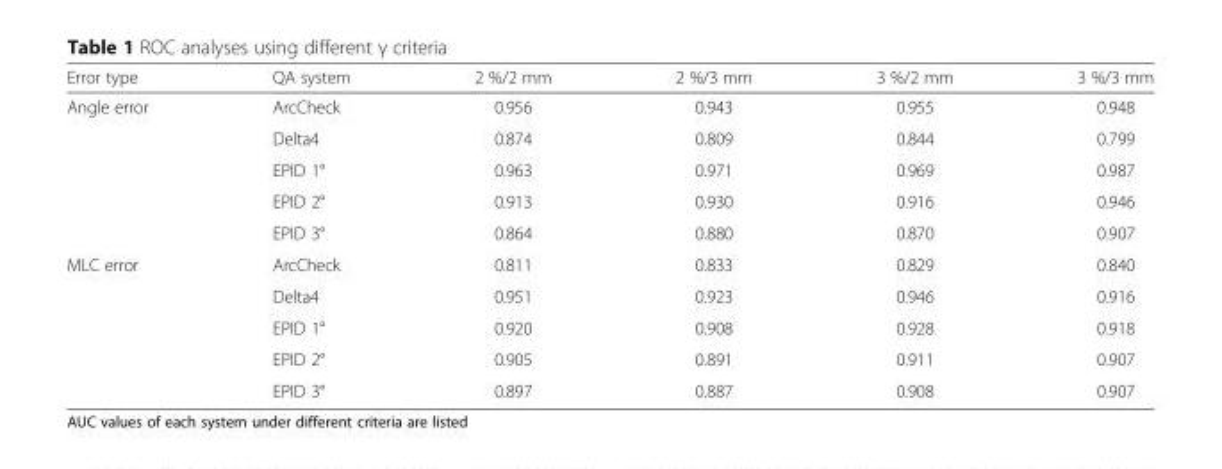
<table><thead><tr><td>Error type</td><td>QA system</td><td>2 %/2 mm</td><td>2 %/3 mm</td><td>3 %/2 mm</td><td>3 %/3 mm</td></tr></thead><tbody><tr><td rowspan="5">Angle error</td><td>ArcCheck</td><td>0.956</td><td>0.943</td><td>0.955</td><td>0.948</td></tr><tr><td>Delta4</td><td>0.874</td><td>0.809</td><td>0.844</td><td>0.799</td></tr><tr><td>EPID 1°</td><td>0.963</td><td>0.971</td><td>0.969</td><td>0.987</td></tr><tr><td>EPID 2°</td><td>0.913</td><td>0.930</td><td>0.916</td><td>0.946</td></tr><tr><td>EPID 3°</td><td>0.864</td><td>0.880</td><td>0.870</td><td>0.907</td></tr><tr><td rowspan="5">MLC error</td><td>ArcCheck</td><td>0.811</td><td>0.833</td><td>0.829</td><td>0.840</td></tr><tr><td>Delta4</td><td>0.951</td><td>0.923</td><td>0.946</td><td>0.916</td></tr><tr><td>EPID 1°</td><td>0.920</td><td>0.908</td><td>0.928</td><td>0.918</td></tr><tr><td>EPID 2°</td><td>0.905</td><td>0.891</td><td>0.911</td><td>0.907</td></tr><tr><td>EPID 3°</td><td>0.897</td><td>0.887</td><td>0.908</td><td>0.907</td></tr></tbody></table>